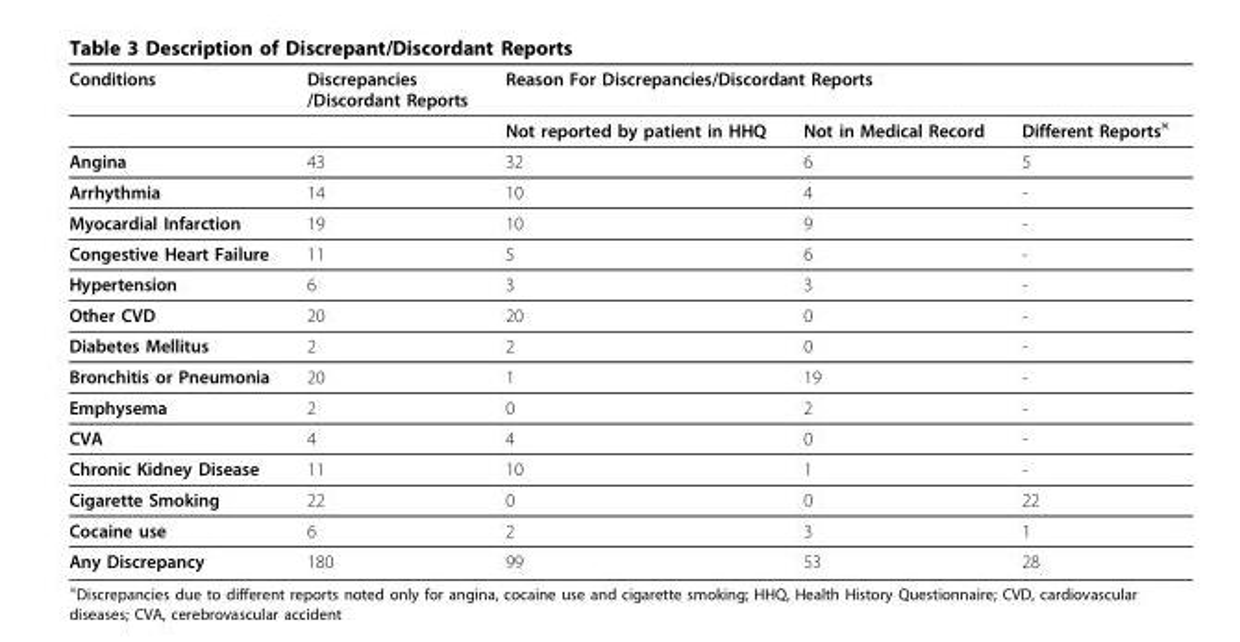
<table><thead><tr><td rowspan="2">Conditions</td><td rowspan="2">Discrepancies /Discordant Reports</td><td colspan="3">Reason For Discrepancies/Discordant Reports</td></tr><tr><td>Not reported by patient in HHQ</td><td>Not in Medical Record</td><td>Different Reports<sup>×</sup></td></tr></thead><tbody><tr><td>Angina</td><td>43</td><td>32</td><td>6</td><td>5</td></tr><tr><td>Arrhythmia</td><td>14</td><td>10</td><td>4</td><td>-</td></tr><tr><td>Myocardial Infarction</td><td>19</td><td>10</td><td>9</td><td>-</td></tr><tr><td>Congestive Heart Failure</td><td>11</td><td>5</td><td>6</td><td>-</td></tr><tr><td>Hypertension</td><td>6</td><td>3</td><td>3</td><td>-</td></tr><tr><td>Other CVD</td><td>20</td><td>20</td><td>0</td><td>-</td></tr><tr><td>Diabetes Mellitus</td><td>2</td><td>2</td><td>0</td><td>-</td></tr><tr><td>Bronchitis or Pneumonia</td><td>20</td><td>1</td><td>19</td><td>-</td></tr><tr><td>Emphysema</td><td>2</td><td>0</td><td>2</td><td>-</td></tr><tr><td>CVA</td><td>4</td><td>4</td><td>0</td><td>-</td></tr><tr><td>Chronic Kidney Disease</td><td>11</td><td>10</td><td>1</td><td>-</td></tr><tr><td>Cigarette Smoking</td><td>22</td><td>0</td><td>0</td><td>22</td></tr><tr><td>Cocaine use</td><td>6</td><td>2</td><td>3</td><td>1</td></tr><tr><td>Any Discrepancy</td><td>180</td><td>99</td><td>53</td><td>28</td></tr></tbody></table>